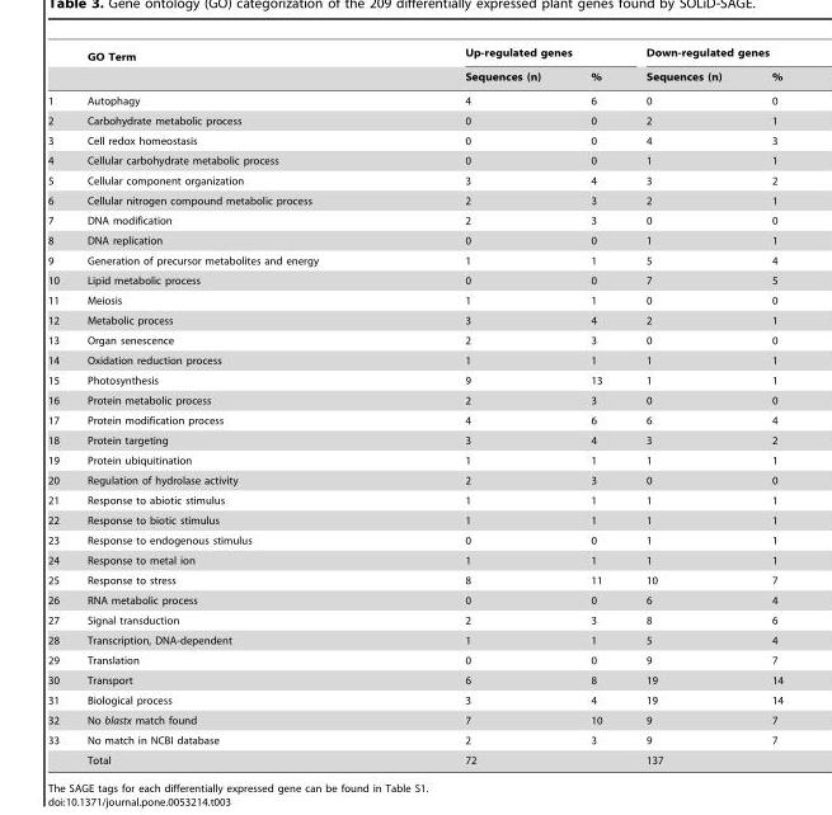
<table><thead><tr><td rowspan="2"></td><td rowspan="2">GO Term</td><td colspan="2">Up-regulated genes</td><td colspan="2">Down-regulated genes</td></tr><tr><td>Sequences (n)</td><td>%</td><td>Sequences (n)</td><td>%</td></tr></thead><tbody><tr><td>1</td><td>Autophagy</td><td>4</td><td>6</td><td>0</td><td>0</td></tr><tr><td>2</td><td>Carbohydrate metabolic process</td><td>0</td><td>0</td><td>2</td><td>1</td></tr><tr><td>3</td><td>Cell redox homeostasis</td><td>0</td><td>0</td><td>4</td><td>3</td></tr><tr><td>4</td><td>Cellular carbohydrate metabolic process</td><td>0</td><td>0</td><td>1</td><td>1</td></tr><tr><td>5</td><td>Cellular component organization</td><td>3</td><td>4</td><td>3</td><td>2</td></tr><tr><td>6</td><td>Cellular nitrogen compound metabolic process</td><td>2</td><td>3</td><td>2</td><td>1</td></tr><tr><td>7</td><td>DNA modification</td><td>2</td><td>3</td><td>0</td><td>0</td></tr><tr><td>8</td><td>DNA replication</td><td>0</td><td>0</td><td>1</td><td>1</td></tr><tr><td>9</td><td>Generation of precursor metabolites and energy</td><td>1</td><td>1</td><td>5</td><td>4</td></tr><tr><td>10</td><td>Lipid metabolic process</td><td>0</td><td>0</td><td>7</td><td>5</td></tr><tr><td>11</td><td>Meiosis</td><td>1</td><td>1</td><td>0</td><td>0</td></tr><tr><td>12</td><td>Metabolic process</td><td>3</td><td>4</td><td>2</td><td>1</td></tr><tr><td>13</td><td>Organ senescence</td><td>2</td><td>3</td><td>0</td><td>0</td></tr><tr><td>14</td><td>Oxidation reduction process</td><td>1</td><td>1</td><td>1</td><td>1</td></tr><tr><td>15</td><td>Photosynthesis</td><td>9</td><td>13</td><td>1</td><td>1</td></tr><tr><td>16</td><td>Protein metabolic process</td><td>2</td><td>3</td><td>0</td><td>0</td></tr><tr><td>17</td><td>Protein modification process</td><td>4</td><td>6</td><td>6</td><td>4</td></tr><tr><td>18</td><td>Protein targeting</td><td>3</td><td>4</td><td>3</td><td>2</td></tr><tr><td>19</td><td>Protein ubiquitination</td><td>1</td><td>1</td><td>1</td><td>1</td></tr><tr><td>20</td><td>Regulation of hydrolase activity</td><td>2</td><td>3</td><td>0</td><td>0</td></tr><tr><td>21</td><td>Response to abiotic stimulus</td><td>1</td><td>1</td><td>1</td><td>1</td></tr><tr><td>22</td><td>Response to biotic stimulus</td><td>1</td><td>1</td><td>1</td><td>1</td></tr><tr><td>23</td><td>Response to endogenous stimulus</td><td>0</td><td>0</td><td>1</td><td>1</td></tr><tr><td>24</td><td>Response to metal ion</td><td>1</td><td>1</td><td>1</td><td>1</td></tr><tr><td>25</td><td>Response to stress</td><td>8</td><td>11</td><td>10</td><td>7</td></tr><tr><td>26</td><td>RNA metabolic process</td><td>0</td><td>0</td><td>6</td><td>4</td></tr><tr><td>27</td><td>Signal transduction</td><td>2</td><td>3</td><td>8</td><td>6</td></tr><tr><td>28</td><td>Transcription, DNA-dependent</td><td>1</td><td>1</td><td>5</td><td>4</td></tr><tr><td>29</td><td>Translation</td><td>0</td><td>0</td><td>9</td><td>7</td></tr><tr><td>30</td><td>Transport</td><td>6</td><td>8</td><td>19</td><td>14</td></tr><tr><td>31</td><td>Biological process</td><td>3</td><td>4</td><td>19</td><td>14</td></tr><tr><td>32</td><td>No blastx match found</td><td>7</td><td>10</td><td>9</td><td>7</td></tr><tr><td rowspan="2">33</td><td>No match in NCBI database</td><td>2</td><td>3</td><td>9</td><td>7</td></tr><tr><td>Total</td><td colspan="2">72</td><td colspan="2">137</td></tr></tbody></table>